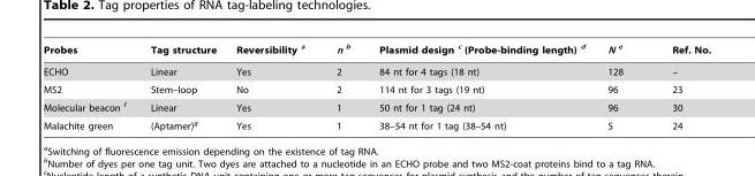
<table><thead><tr><td>Probes</td><td>Tag structure</td><td>Reversibility a</td><td>n b</td><td>Plasmid design c (Probe-binding length) d</td><td>N e</td><td>Ref. No.</td></tr></thead><tbody><tr><td>ECHO</td><td>Linear</td><td>Yes</td><td>2</td><td>84 nt for 4 tags (18 nt)</td><td>128</td><td>–</td></tr><tr><td>MS2</td><td>Stem–loop</td><td>No</td><td>2</td><td>114 nt for 3 tags (19 nt)</td><td>96</td><td>23</td></tr><tr><td>Molecular beacon f</td><td>Linear</td><td>Yes</td><td>1</td><td>50 nt for 1 tag (24 nt)</td><td>96</td><td>30</td></tr><tr><td>Malachite green</td><td>(Aptamer)<sup>g</sup></td><td>Yes</td><td>1</td><td>38–54 nt for 1 tag (38–54 nt)</td><td>5</td><td>24</td></tr></tbody></table>